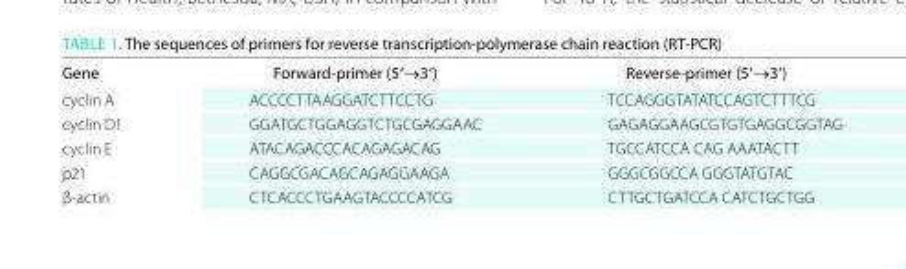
<table><thead><tr><td>Gene</td><td>Forward-primer (5′→3′)</td><td>Reverse-primer (5′→3′)</td></tr></thead><tbody><tr><td>cyclin A</td><td>ACCCCTTAAGGATCTTCCTG</td><td>TCCAGGGTATATCCAGTCTTTCG</td></tr><tr><td>cyclin D1</td><td>GGATGCTGGAGGTCTGCGAGGAAC</td><td>GAGAGGAAGCGTGTGAGGCGGTAG</td></tr><tr><td>cyclin E</td><td>ATACAGACCCACAGAGACAG</td><td>TGCCATCCA CAG AAATACTT</td></tr><tr><td>p21</td><td>CAGGCGACAGCAGAGGAAGA</td><td>GGGCGGCCA GGGTATGTAC</td></tr><tr><td>β-actin</td><td>CTCACCCTGAAGTACCCCATCG</td><td>CTTGCTGATCCA CATCTGCTGG</td></tr></tbody></table>